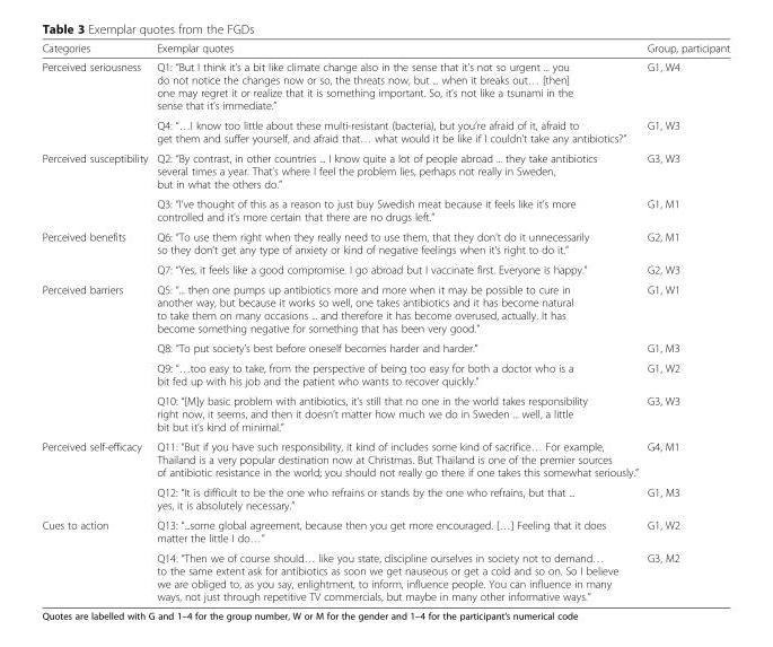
<table><thead><tr><td>Categories</td><td>Exemplar quotes</td><td>Group, participant</td></tr></thead><tbody><tr><td rowspan="2">Perceived seriousness</td><td>Q1: “But I think it’s a bit like climate change also in the sense that it’s not so urgent ... you do not notice the changes now or so, the threats now, but ... when it breaks out… [then] one may regret it or realize that it is something important. So, it’s not like a tsunami in the sense that it’s immediate.”</td><td>G1, W4</td></tr><tr><td>Q4: “…I know too little about these multi-resistant (bacteria), but you’re afraid of it, afraid to get them and suffer yourself, and afraid that… what would it be like if I couldn’t take any antibiotics?”</td><td>G1, W3</td></tr><tr><td rowspan="2">Perceived susceptibility</td><td>Q2: “By contrast, in other countries ... I know quite a lot of people abroad ... they take antibiotics several times a year. That’s where I feel the problem lies, perhaps not really in Sweden, but in what the others do.”</td><td>G3, W3</td></tr><tr><td>Q3: “I’ve thought of this as a reason to just buy Swedish meat because it feels like it’s more controlled and it’s more certain that there are no drugs left.”</td><td>G1, M1</td></tr><tr><td rowspan="2">Perceived benefits</td><td>Q6: “To use them right when they really need to use them, that they don’t do it unnecessarily so they don’t get any type of anxiety or kind of negative feelings when it’s right to do it.”</td><td>G2, M1</td></tr><tr><td>Q7: “Yes, it feels like a good compromise. I go abroad but I vaccinate first. Everyone is happy.”</td><td>G2, W3</td></tr><tr><td rowspan="4">Perceived barriers</td><td>Q5: “... then one pumps up antibiotics more and more when it may be possible to cure in another way, but because it works so well, one takes antibiotics and it has become natural to take them on many occasions ... and therefore it has become overused, actually. It has become something negative for something that has been very good.”</td><td>G1, W1</td></tr><tr><td>Q8: “To put society’s best before oneself becomes harder and harder.”</td><td>G1, M3</td></tr><tr><td>Q9: “…too easy to take, from the perspective of being too easy for both a doctor who is a bit fed up with his job and the patient who wants to recover quickly.”</td><td>G1, W2</td></tr><tr><td>Q10: “[M]y basic problem with antibiotics, it’s still that no one in the world takes responsibility right now, it seems, and then it doesn’t matter how much we do in Sweden ... well, a little bit but it’s kind of minimal.”</td><td>G3, W3</td></tr><tr><td rowspan="2">Perceived self-efficacy</td><td>Q11: “But if you have such responsibility, it kind of includes some kind of sacrifice… For example, Thailand is a very popular destination now at Christmas. But Thailand is one of the premier sources of antibiotic resistance in the world; you should not really go there if one takes this somewhat seriously.”</td><td>G4, M1</td></tr><tr><td>Q12: “It is difficult to be the one who refrains or stands by the one who refrains, but that ... yes, it is absolutely necessary.”</td><td>G1, M3</td></tr><tr><td rowspan="2">Cues to action</td><td>Q13: “...some global agreement, because then you get more encouraged. […] Feeling that it does matter the little I do…”</td><td>G1, W2</td></tr><tr><td>Q14: “Then we of course should… like you state, discipline ourselves in society not to demand… to the same extent ask for antibiotics as soon we get nauseous or get a cold and so on. So I believe we are obliged to, as you say, enlightment, to inform, influence people. You can influence in many ways, not just through repetitive TV commercials, but maybe in many other informative ways.”</td><td>G3, M2</td></tr></tbody></table>